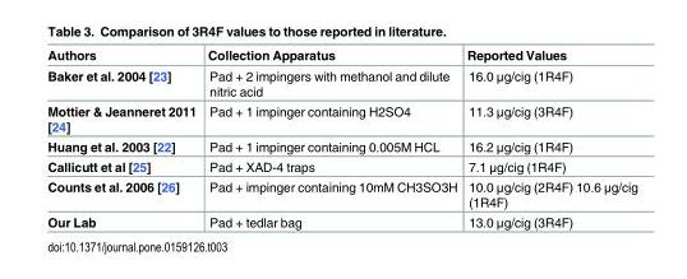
<table><thead><tr><td>Authors</td><td>Collection Apparatus</td><td>Reported Values</td></tr></thead><tbody><tr><td>Baker et al. 2004 [23]</td><td>Pad + 2 impingers with methanol and dilute nitric acid</td><td>16.0 μg/cig (1R4F)</td></tr><tr><td>Mottier &amp; Jeanneret 2011 [24]</td><td>Pad + 1 impinger containing H2SO4</td><td>11.3 μg/cig (3R4F)</td></tr><tr><td>Huang et al. 2003 [22]</td><td>Pad + 1 impinger containing 0.005M HCL</td><td>16.2 μg/cig (1R4F)</td></tr><tr><td>Callicutt et al [25]</td><td>Pad + XAD-4 traps</td><td>7.1 μg/cig (1R4F)</td></tr><tr><td>Counts et al. 2006 [26]</td><td>Pad + impinger containing 10mM CH3SO3H</td><td>10.0 μg/cig (2R4F) 10.6 μg/cig (1R4F)</td></tr><tr><td>Our Lab</td><td>Pad + tedlar bag</td><td>13.0 μg/cig (3R4F)</td></tr></tbody></table>